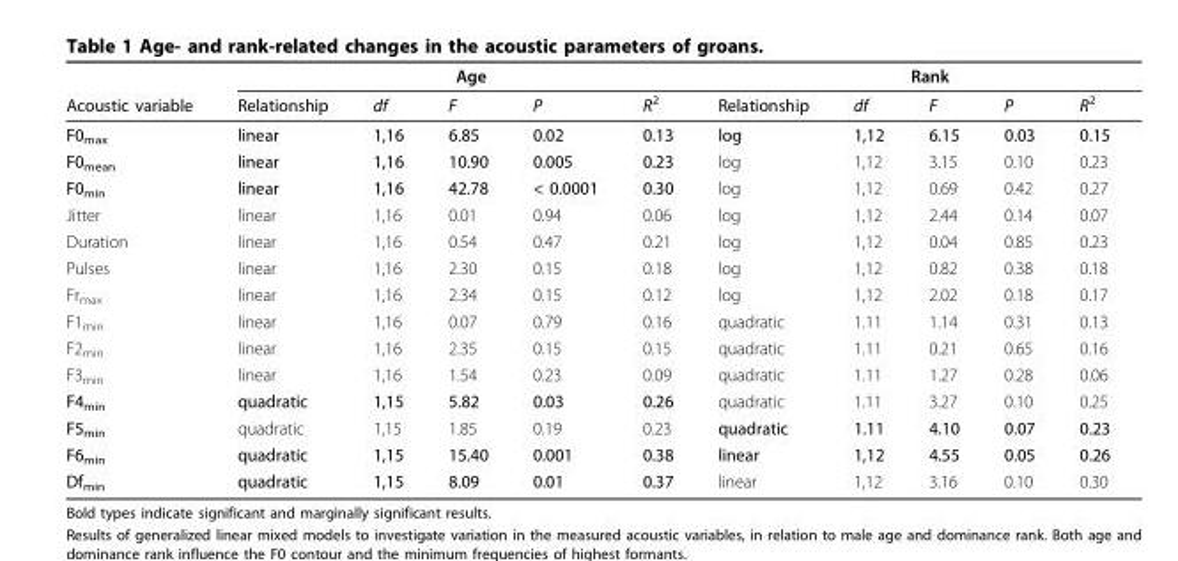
<table><thead><tr><td rowspan="2">Acoustic variable</td><td colspan="5">Age</td><td colspan="5">Rank</td></tr><tr><td>Relationship</td><td>df</td><td>F</td><td>P</td><td>R<sup>2</sup></td><td>Relationship</td><td>df</td><td>F</td><td>P</td><td>R<sup>2</sup></td></tr></thead><tbody><tr><td>F0<sub>max</sub></td><td>linear</td><td>1,16</td><td>6.85</td><td>0.02</td><td>0.13</td><td>log</td><td>1,12</td><td>6.15</td><td>0.03</td><td>0.15</td></tr><tr><td>F0<sub>mean</sub></td><td>linear</td><td>1,16</td><td>10.90</td><td>0.005</td><td>0.23</td><td>log</td><td>1,12</td><td>3.15</td><td>0.10</td><td>0.23</td></tr><tr><td>F0<sub>min</sub></td><td>linear</td><td>1,16</td><td>42.78</td><td>&lt; 0.0001</td><td>0.30</td><td>log</td><td>1,12</td><td>0.69</td><td>0.42</td><td>0.27</td></tr><tr><td>Jitter</td><td>linear</td><td>1,16</td><td>0.01</td><td>0.94</td><td>0.06</td><td>log</td><td>1,12</td><td>2.44</td><td>0.14</td><td>0.07</td></tr><tr><td>Duration</td><td>linear</td><td>1,16</td><td>0.54</td><td>0.47</td><td>0.21</td><td>log</td><td>1,12</td><td>0.04</td><td>0.85</td><td>0.23</td></tr><tr><td>Pulses</td><td>linear</td><td>1,16</td><td>2.30</td><td>0.15</td><td>0.18</td><td>log</td><td>1,12</td><td>0.82</td><td>0.38</td><td>0.18</td></tr><tr><td>Fr<sub>max</sub></td><td>linear</td><td>1,16</td><td>2.34</td><td>0.15</td><td>0.12</td><td>log</td><td>1,12</td><td>2.02</td><td>0.18</td><td>0.17</td></tr><tr><td>F1<sub>min</sub></td><td>linear</td><td>1,16</td><td>0.07</td><td>0.79</td><td>0.16</td><td>quadratic</td><td>1.11</td><td>1.14</td><td>0.31</td><td>0.13</td></tr><tr><td>F2<sub>min</sub></td><td>linear</td><td>1,16</td><td>2.35</td><td>0.15</td><td>0.15</td><td>quadratic</td><td>1.11</td><td>0.21</td><td>0.65</td><td>0.16</td></tr><tr><td>F3<sub>min</sub></td><td>linear</td><td>1,16</td><td>1.54</td><td>0.23</td><td>0.09</td><td>quadratic</td><td>1.11</td><td>1.27</td><td>0.28</td><td>0.06</td></tr><tr><td>F4<sub>min</sub></td><td>quadratic</td><td>1,15</td><td>5.82</td><td>0.03</td><td>0.26</td><td>quadratic</td><td>1.11</td><td>3.27</td><td>0.10</td><td>0.25</td></tr><tr><td>F5<sub>min</sub></td><td>quadratic</td><td>1,15</td><td>1.85</td><td>0.19</td><td>0.23</td><td>quadratic</td><td>1.11</td><td>4.10</td><td>0.07</td><td>0.23</td></tr><tr><td>F6<sub>min</sub></td><td>quadratic</td><td>1,15</td><td>15.40</td><td>0.001</td><td>0.38</td><td>linear</td><td>1,12</td><td>4.55</td><td>0.05</td><td>0.26</td></tr><tr><td>Df<sub>min</sub></td><td>quadratic</td><td>1,15</td><td>8.09</td><td>0.01</td><td>0.37</td><td>linear</td><td>1,12</td><td>3.16</td><td>0.10</td><td>0.30</td></tr></tbody></table>